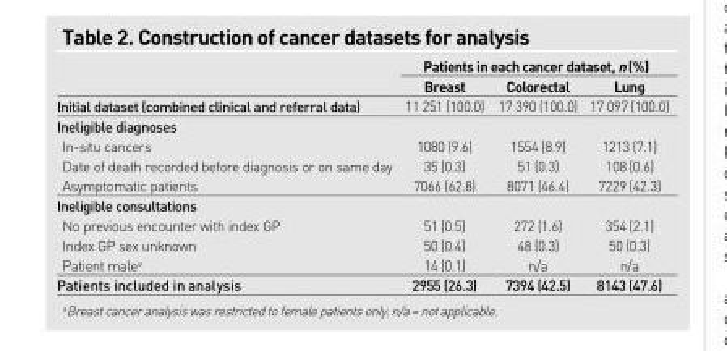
<table><thead><tr><td rowspan="2"></td><td colspan="3">Patients in each cancer dataset, n (%)</td></tr><tr><td>Breast</td><td>Colorectal</td><td>Lung</td></tr></thead><tbody><tr><td>Initial dataset (combined clinical and referral data)</td><td>11 251 (100.0)</td><td>17 390 (100.0)</td><td>17 097 (100.0)</td></tr><tr><td colspan="4">Ineligible diagnoses</td></tr><tr><td>In-situ cancers</td><td>1080 (9.6)</td><td>1554 (8.9)</td><td>1213 (7.1)</td></tr><tr><td>Date of death recorded before diagnosis or on same day</td><td>35 (0.3)</td><td>51 (0.3)</td><td>108 (0.6)</td></tr><tr><td>Asymptomatic patients</td><td>7066 (62.8)</td><td>8071 (46.4)</td><td>7229 (42.3)</td></tr><tr><td colspan="4">Ineligible consultations</td></tr><tr><td>No previous encounter with index GP</td><td>51 (0.5)</td><td>272 (1.6)</td><td>354 (2.1)</td></tr><tr><td>Index GP sex unknown</td><td>50 (0.4)</td><td>48 (0.3)</td><td>50 (0.3)</td></tr><tr><td>Patient male<sup>a</sup></td><td>14 (0.1)</td><td>n/a</td><td>n/a</td></tr><tr><td>Patients included in analysis</td><td>2955 (26.3)</td><td>7394 (42.5)</td><td>8143 (47.6)</td></tr></tbody></table>